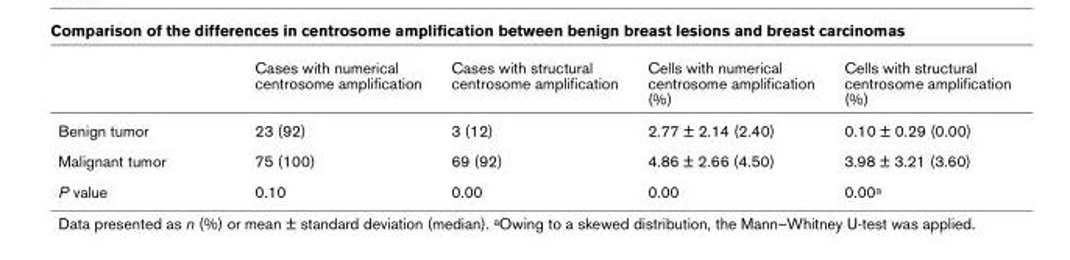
<table><thead><tr><td></td><td>Cases with numerical centrosome amplification</td><td>Cases with structural centrosome amplification</td><td>Cells with numerical centrosome amplification (%)</td><td>Cells with structural centrosome amplification (%)</td></tr></thead><tbody><tr><td>Benign tumor</td><td>23 (92)</td><td>3 (12)</td><td>2.77 ± 2.14 (2.40)</td><td>0.10 ± 0.29 (0.00)</td></tr><tr><td>Malignant tumor</td><td>75 (100)</td><td>69 (92)</td><td>4.86 ± 2.66 (4.50)</td><td>3.98 ± 3.21 (3.60)</td></tr><tr><td>P value</td><td>0.10</td><td>0.00</td><td>0.00</td><td>0.00<sup>a</sup></td></tr></tbody></table>